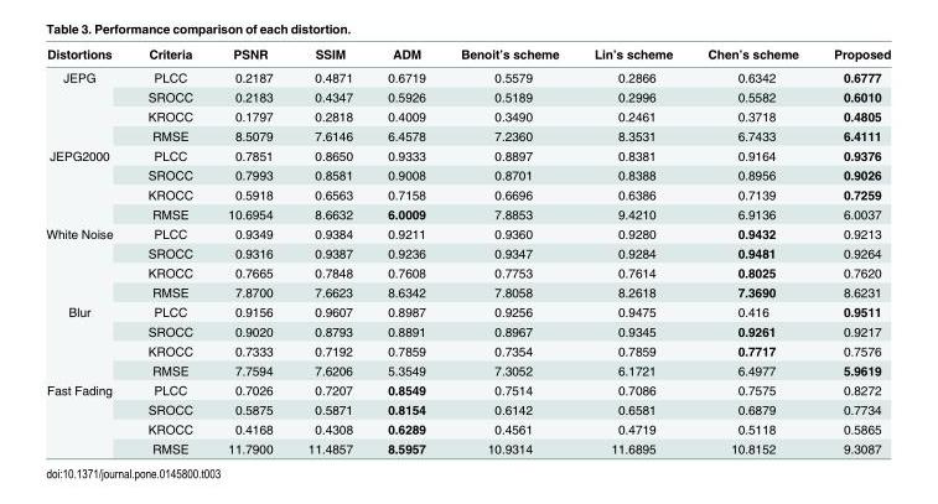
<table><thead><tr><td>Distortions</td><td>Criteria</td><td>PSNR</td><td>SSIM</td><td>ADM</td><td>Benoit’s scheme</td><td>Lin’s scheme</td><td>Chen’s scheme</td><td>Proposed</td></tr></thead><tbody><tr><td rowspan="4">JEPG</td><td>PLCC</td><td>0.2187</td><td>0.4871</td><td>0.6719</td><td>0.5579</td><td>0.2866</td><td>0.6342</td><td>0.6777</td></tr><tr><td>SROCC</td><td>0.2183</td><td>0.4347</td><td>0.5926</td><td>0.5189</td><td>0.2996</td><td>0.5582</td><td>0.6010</td></tr><tr><td>KROCC</td><td>0.1797</td><td>0.2818</td><td>0.4009</td><td>0.3490</td><td>0.2461</td><td>0.3718</td><td>0.4805</td></tr><tr><td>RMSE</td><td>8.5079</td><td>7.6146</td><td>6.4578</td><td>7.2360</td><td>8.3531</td><td>6.7433</td><td>6.4111</td></tr><tr><td rowspan="4">JEPG2000</td><td>PLCC</td><td>0.7851</td><td>0.8650</td><td>0.9333</td><td>0.8897</td><td>0.8381</td><td>0.9164</td><td>0.9376</td></tr><tr><td>SROCC</td><td>0.7993</td><td>0.8581</td><td>0.9008</td><td>0.8701</td><td>0.8388</td><td>0.8956</td><td>0.9026</td></tr><tr><td>KROCC</td><td>0.5918</td><td>0.6563</td><td>0.7158</td><td>0.6696</td><td>0.6386</td><td>0.7139</td><td>0.7259</td></tr><tr><td>RMSE</td><td>10.6954</td><td>8.6632</td><td>6.0009</td><td>7.8853</td><td>9.4210</td><td>6.9136</td><td>6.0037</td></tr><tr><td rowspan="4">White Noise</td><td>PLCC</td><td>0.9349</td><td>0.9384</td><td>0.9211</td><td>0.9360</td><td>0.9280</td><td>0.9432</td><td>0.9213</td></tr><tr><td>SROCC</td><td>0.9316</td><td>0.9387</td><td>0.9236</td><td>0.9347</td><td>0.9284</td><td>0.9481</td><td>0.9264</td></tr><tr><td>KROCC</td><td>0.7665</td><td>0.7848</td><td>0.7608</td><td>0.7753</td><td>0.7614</td><td>0.8025</td><td>0.7620</td></tr><tr><td>RMSE</td><td>7.8700</td><td>7.6623</td><td>8.6342</td><td>7.8058</td><td>8.2618</td><td>7.3690</td><td>8.6231</td></tr><tr><td rowspan="4">Blur</td><td>PLCC</td><td>0.9156</td><td>0.9607</td><td>0.8987</td><td>0.9256</td><td>0.9475</td><td>0.416</td><td>0.9511</td></tr><tr><td>SROCC</td><td>0.9020</td><td>0.8793</td><td>0.8891</td><td>0.8967</td><td>0.9345</td><td>0.9261</td><td>0.9217</td></tr><tr><td>KROCC</td><td>0.7333</td><td>0.7192</td><td>0.7859</td><td>0.7354</td><td>0.7859</td><td>0.7717</td><td>0.7576</td></tr><tr><td>RMSE</td><td>7.7594</td><td>7.6206</td><td>5.3549</td><td>7.3052</td><td>6.1721</td><td>6.4977</td><td>5.9619</td></tr><tr><td rowspan="4">Fast Fading</td><td>PLCC</td><td>0.7026</td><td>0.7207</td><td>0.8549</td><td>0.7514</td><td>0.7086</td><td>0.7575</td><td>0.8272</td></tr><tr><td>SROCC</td><td>0.5875</td><td>0.5871</td><td>0.8154</td><td>0.6142</td><td>0.6581</td><td>0.6879</td><td>0.7734</td></tr><tr><td>KROCC</td><td>0.4168</td><td>0.4308</td><td>0.6289</td><td>0.4561</td><td>0.4719</td><td>0.5118</td><td>0.5865</td></tr><tr><td>RMSE</td><td>11.7900</td><td>11.4857</td><td>8.5957</td><td>10.9314</td><td>11.6895</td><td>10.8152</td><td>9.3087</td></tr></tbody></table>